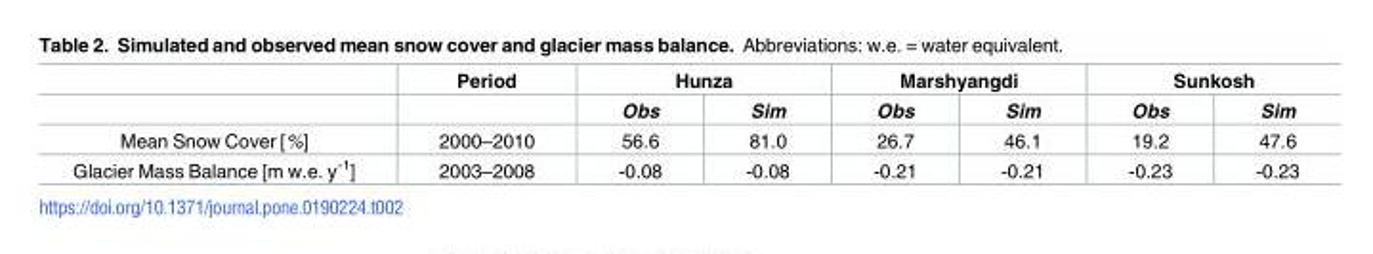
<table><thead><tr><td rowspan="2"></td><td rowspan="2">Period</td><td colspan="2">Hunza</td><td colspan="2">Marshyangdi</td><td colspan="2">Sunkosh</td></tr><tr><td>Obs</td><td>Sim</td><td>Obs</td><td>Sim</td><td>Obs</td><td>Sim</td></tr></thead><tbody><tr><td>Mean Snow Cover [%]</td><td>2000–2010</td><td>56.6</td><td>81.0</td><td>26.7</td><td>46.1</td><td>19.2</td><td>47.6</td></tr><tr><td>Glacier Mass Balance [m w.e. y<sup>-1</sup>]</td><td>2003–2008</td><td>-0.08</td><td>-0.08</td><td>-0.21</td><td>-0.21</td><td>-0.23</td><td>-0.23</td></tr></tbody></table>